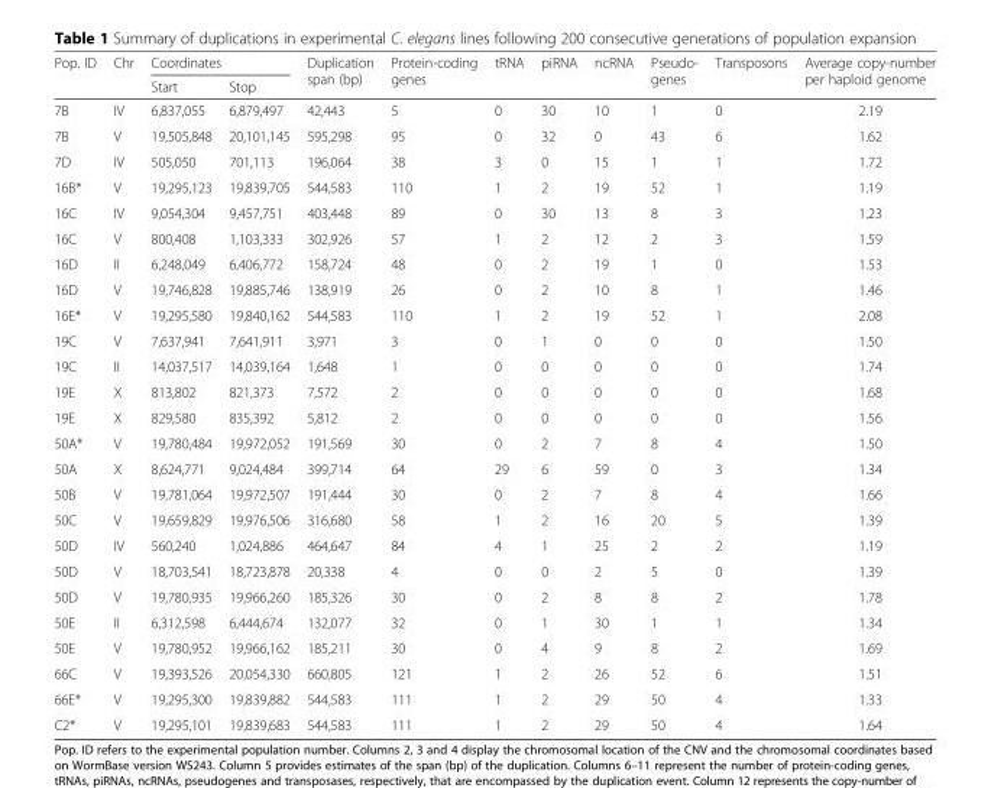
<table><thead><tr><td rowspan="2">Pop. ID</td><td rowspan="2">Chr</td><td colspan="2">Coordinates</td><td rowspan="2">Duplication span (bp)</td><td rowspan="2">Protein-coding genes</td><td rowspan="2">tRNA</td><td rowspan="2">piRNA</td><td rowspan="2">ncRNA</td><td rowspan="2">Pseudo- genes</td><td rowspan="2">Transposons</td><td rowspan="2">Average copy-number per haploid genome</td></tr><tr><td>Start</td><td>Stop</td></tr></thead><tbody><tr><td>7B</td><td>IV</td><td>6,837,055</td><td>6,879,497</td><td>42,443</td><td>5</td><td>0</td><td>30</td><td>10</td><td>1</td><td>0</td><td>2.19</td></tr><tr><td>7B</td><td>V</td><td>19,505,848</td><td>20,101,145</td><td>595,298</td><td>95</td><td>0</td><td>32</td><td>0</td><td>43</td><td>6</td><td>1.62</td></tr><tr><td>7D</td><td>IV</td><td>505,050</td><td>701,113</td><td>196,064</td><td>38</td><td>3</td><td>0</td><td>15</td><td>1</td><td>1</td><td>1.72</td></tr><tr><td>16B*</td><td>V</td><td>19,295,123</td><td>19,839,705</td><td>544,583</td><td>110</td><td>1</td><td>2</td><td>19</td><td>52</td><td>1</td><td>1.19</td></tr><tr><td>16C</td><td>IV</td><td>9,054,304</td><td>9,457,751</td><td>403,448</td><td>89</td><td>0</td><td>30</td><td>13</td><td>8</td><td>3</td><td>1.23</td></tr><tr><td>16C</td><td>V</td><td>800,408</td><td>1,103,333</td><td>302,926</td><td>57</td><td>1</td><td>2</td><td>12</td><td>2</td><td>3</td><td>1.59</td></tr><tr><td>16D</td><td>II</td><td>6,248,049</td><td>6,406,772</td><td>158,724</td><td>48</td><td>0</td><td>2</td><td>19</td><td>1</td><td>0</td><td>1.53</td></tr><tr><td>16D</td><td>V</td><td>19,746,828</td><td>19,885,746</td><td>138,919</td><td>26</td><td>0</td><td>2</td><td>10</td><td>8</td><td>1</td><td>1.46</td></tr><tr><td>16E*</td><td>V</td><td>19,295,580</td><td>19,840,162</td><td>544,583</td><td>110</td><td>1</td><td>2</td><td>19</td><td>52</td><td>1</td><td>2.08</td></tr><tr><td>19C</td><td>V</td><td>7,637,941</td><td>7,641,911</td><td>3,971</td><td>3</td><td>0</td><td>1</td><td>0</td><td>0</td><td>0</td><td>1.50</td></tr><tr><td>19C</td><td>II</td><td>14,037,517</td><td>14,039,164</td><td>1,648</td><td>1</td><td>0</td><td>0</td><td>0</td><td>0</td><td>0</td><td>1.74</td></tr><tr><td>19E</td><td>X</td><td>813,802</td><td>821,373</td><td>7,572</td><td>2</td><td>0</td><td>0</td><td>0</td><td>0</td><td>0</td><td>1.68</td></tr><tr><td>19E</td><td>X</td><td>829,580</td><td>835,392</td><td>5,812</td><td>2</td><td>0</td><td>0</td><td>0</td><td>0</td><td>0</td><td>1.56</td></tr><tr><td>50A*</td><td>V</td><td>19,780,484</td><td>19,972,052</td><td>191,569</td><td>30</td><td>0</td><td>2</td><td>7</td><td>8</td><td>4</td><td>1.50</td></tr><tr><td>50A</td><td>X</td><td>8,624,771</td><td>9,024,484</td><td>399,714</td><td>64</td><td>29</td><td>6</td><td>59</td><td>0</td><td>3</td><td>1.34</td></tr><tr><td>50B</td><td>V</td><td>19,781,064</td><td>19,972,507</td><td>191,444</td><td>30</td><td>0</td><td>2</td><td>7</td><td>8</td><td>4</td><td>1.66</td></tr><tr><td>50C</td><td>V</td><td>19,659,829</td><td>19,976,506</td><td>316,680</td><td>58</td><td>1</td><td>2</td><td>16</td><td>20</td><td>5</td><td>1.39</td></tr><tr><td>50D</td><td>IV</td><td>560,240</td><td>1,024,886</td><td>464,647</td><td>84</td><td>4</td><td>1</td><td>25</td><td>2</td><td>2</td><td>1.19</td></tr><tr><td>50D</td><td>V</td><td>18,703,541</td><td>18,723,878</td><td>20,338</td><td>4</td><td>0</td><td>0</td><td>2</td><td>5</td><td>0</td><td>1.39</td></tr><tr><td>50D</td><td>V</td><td>19,780,935</td><td>19,966,260</td><td>185,326</td><td>30</td><td>0</td><td>2</td><td>8</td><td>8</td><td>2</td><td>1.78</td></tr><tr><td>50E</td><td>II</td><td>6,312,598</td><td>6,444,674</td><td>132,077</td><td>32</td><td>0</td><td>1</td><td>30</td><td>1</td><td>1</td><td>1.34</td></tr><tr><td>50E</td><td>V</td><td>19,780,952</td><td>19,966,162</td><td>185,211</td><td>30</td><td>0</td><td>4</td><td>9</td><td>8</td><td>2</td><td>1.69</td></tr><tr><td>66C</td><td>V</td><td>19,393,526</td><td>20,054,330</td><td>660,805</td><td>121</td><td>1</td><td>2</td><td>26</td><td>52</td><td>6</td><td>1.51</td></tr><tr><td>66E*</td><td>V</td><td>19,295,300</td><td>19,839,882</td><td>544,583</td><td>111</td><td>1</td><td>2</td><td>29</td><td>50</td><td>4</td><td>1.33</td></tr><tr><td>C2*</td><td>V</td><td>19,295,101</td><td>19,839,683</td><td>544,583</td><td>111</td><td>1</td><td>2</td><td>29</td><td>50</td><td>4</td><td>1.64</td></tr></tbody></table>